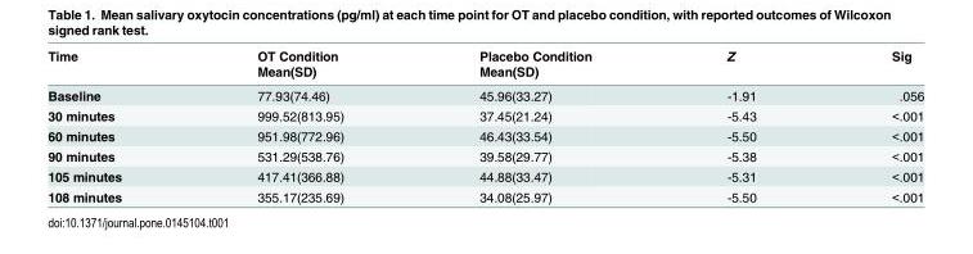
<table><thead><tr><td rowspan="2">Time</td><td rowspan="2">OT Condition Mean(SD)</td><td rowspan="2">Placebo Condition Mean(SD)</td><td rowspan="2">Z</td><td rowspan="2">Sig</td></tr><tr></tr></thead><tbody><tr><td>Baseline</td><td>77.93(74.46)</td><td>45.96(33.27)</td><td>-1.91</td><td>.056</td></tr><tr><td>30 minutes</td><td>999.52(813.95)</td><td>37.45(21.24)</td><td>-5.43</td><td>&lt;.001</td></tr><tr><td>60 minutes</td><td>951.98(772.96)</td><td>46.43(33.54)</td><td>-5.50</td><td>&lt;.001</td></tr><tr><td>90 minutes</td><td>531.29(538.76)</td><td>39.58(29.77)</td><td>-5.38</td><td>&lt;.001</td></tr><tr><td>105 minutes</td><td>417.41(366.88)</td><td>44.88(33.47)</td><td>-5.31</td><td>&lt;.001</td></tr><tr><td>108 minutes</td><td>355.17(235.69)</td><td>34.08(25.97)</td><td>-5.50</td><td>&lt;.001</td></tr></tbody></table>